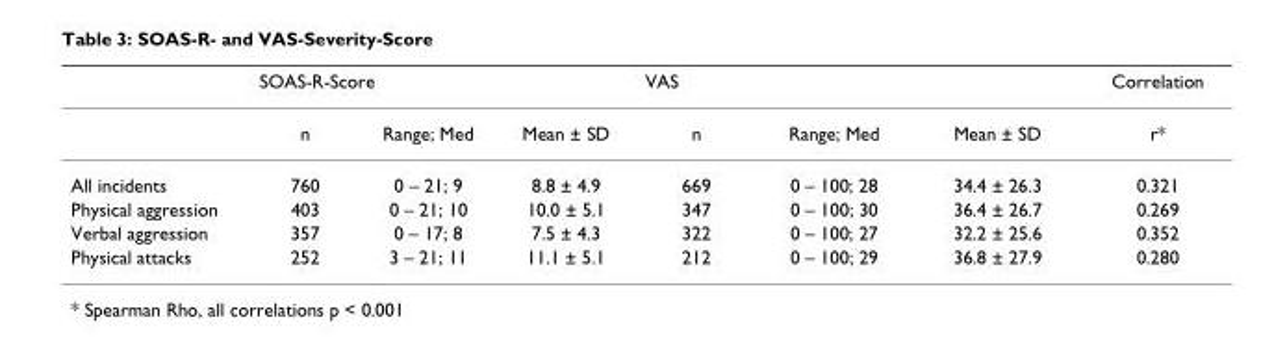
<table><thead><tr><td rowspan="2"></td><td colspan="3">SOAS-R-Score</td><td colspan="3">VAS</td><td rowspan="2">Correlation r*</td></tr><tr><td>n</td><td>Range; Med</td><td>Mean ± SD</td><td>n</td><td>Range; Med</td><td>Mean ± SD</td></tr></thead><tbody><tr><td>All incidents</td><td>760</td><td>0 – 21; 9</td><td>8.8 ± 4.9</td><td>669</td><td>0 – 100; 28</td><td>34.4 ± 26.3</td><td>0.321</td></tr><tr><td>Physical aggression</td><td>403</td><td>0 – 21; 10</td><td>10.0 ± 5.1</td><td>347</td><td>0 – 100; 30</td><td>36.4 ± 26.7</td><td>0.269</td></tr><tr><td>Verbal aggression</td><td>357</td><td>0 – 17; 8</td><td>7.5 ± 4.3</td><td>322</td><td>0 – 100; 27</td><td>32.2 ± 25.6</td><td>0.352</td></tr><tr><td>Physical attacks</td><td>252</td><td>3 – 21; 11</td><td>11.1 ± 5.1</td><td>212</td><td>0 – 100; 29</td><td>36.8 ± 27.9</td><td>0.280</td></tr></tbody></table>